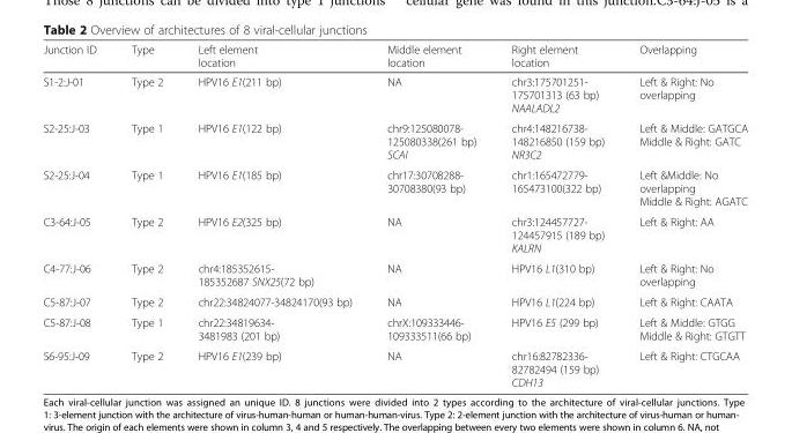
<table><thead><tr><td>Junction ID</td><td>Type</td><td>Left element location</td><td>Middle element location</td><td>Right element location</td><td>Overlapping</td></tr></thead><tbody><tr><td>S1-2:J-01</td><td>Type 2</td><td>HPV16 E1(211 bp)</td><td>NA</td><td>chr3:175701251- 175701313 (63 bp) NAALADL2</td><td>Left &amp; Right: No overlapping</td></tr><tr><td>S2-25:J-03</td><td>Type 1</td><td>HPV16 E1(122 bp)</td><td>chr9:125080078- 125080338(261 bp) SCAI</td><td>chr4:148216738- 148216850 (159 bp) NR3C2</td><td>Left &amp; Middle: GATGCA Middle &amp; Right: GATC</td></tr><tr><td>S2-25:J-04</td><td>Type 1</td><td>HPV16 E1(185 bp)</td><td>chr17:30708288- 30708380(93 bp)</td><td>chr1:165472779- 165473100(322 bp)</td><td>Left &amp;Middle: No overlapping Middle &amp; Right: AGATC</td></tr><tr><td>C3-64:J-05</td><td>Type 2</td><td>HPV16 E2(325 bp)</td><td>NA</td><td>chr3:124457727- 124457915 (189 bp) KALRN</td><td>Left &amp; Right: AA</td></tr><tr><td>C4-77:J-06</td><td>Type 2</td><td>chr4:185352615- 185352687 SNX25(72 bp)</td><td>NA</td><td>HPV16 L1(310 bp)</td><td>Left &amp; Right: No overlapping</td></tr><tr><td>C5-87:J-07</td><td>Type 2</td><td>chr22:34824077-34824170(93 bp)</td><td>NA</td><td>HPV16 L1(224 bp)</td><td>Left &amp; Right: CAATA</td></tr><tr><td>C5-87:J-08</td><td>Type 1</td><td>chr22:34819634- 3481983 (201 bp)</td><td>chrX:109333446- 109333511(66 bp)</td><td>HPV16 E5 (299 bp)</td><td>Left &amp; Middle: GTGG Middle &amp; Right: GTGTT</td></tr><tr><td>S6-95:J-09</td><td>Type 2</td><td>HPV16 E1(239 bp)</td><td>NA</td><td>chr16:82782336- 82782494 (159 bp) CDH13</td><td>Left &amp; Right: CTGCAA</td></tr></tbody></table>